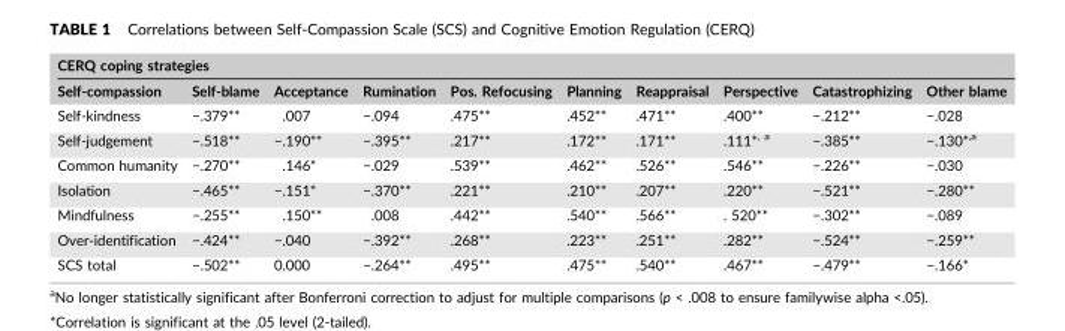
<table><thead><tr><td colspan="10">CERQ coping strategies</td></tr><tr><td>Self‐compassion</td><td>Self‐blame</td><td>Acceptance</td><td>Rumination</td><td>Pos. Refocusing</td><td>Planning</td><td>Reappraisal</td><td>Perspective</td><td>Catastrophizing</td><td>Other blame</td></tr></thead><tbody><tr><td>Self‐kindness</td><td>−.379**</td><td>.007</td><td>−.094</td><td>.475**</td><td>.452**</td><td>.471**</td><td>.400**</td><td>−.212**</td><td>−.028</td></tr><tr><td>Self‐judgement</td><td>−.518**</td><td>−.190**</td><td>−.395**</td><td>.217**</td><td>.172**</td><td>.171**</td><td>.111*<sup>,</sup> a</td><td>−.385**</td><td>−.130*<sup>,</sup>a</td></tr><tr><td>Common humanity</td><td>−.270**</td><td>.146*</td><td>−.029</td><td>.539**</td><td>.462**</td><td>.526**</td><td>.546**</td><td>−.226**</td><td>−.030</td></tr><tr><td>Isolation</td><td>−.465**</td><td>−.151*</td><td>−.370**</td><td>.221**</td><td>.210**</td><td>.207**</td><td>.220**</td><td>−.521**</td><td>−.280**</td></tr><tr><td>Mindfulness</td><td>−.255**</td><td>.150**</td><td>.008</td><td>.442**</td><td>.540**</td><td>.566**</td><td>. 520**</td><td>−.302**</td><td>−.089</td></tr><tr><td>Over‐identification</td><td>−.424**</td><td>−.040</td><td>−.392**</td><td>.268**</td><td>.223**</td><td>.251**</td><td>.282**</td><td>−.524**</td><td>−.259**</td></tr><tr><td>SCS total</td><td>−.502**</td><td>0.000</td><td>−.264**</td><td>.495**</td><td>.475**</td><td>.540**</td><td>.467**</td><td>−.479**</td><td>−.166*</td></tr></tbody></table>